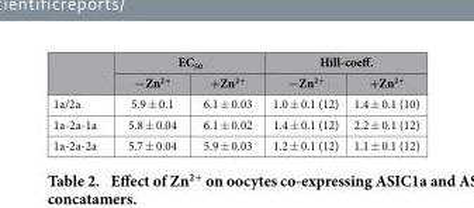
<table><thead><tr><td rowspan="2"></td><td colspan="2">EC<sub>50</sub></td><td colspan="2">Hill-coeff.</td></tr><tr><td>−Zn<sup>2+</sup></td><td>+Zn<sup>2+</sup></td><td>−Zn<sup>2+</sup></td><td>+Zn<sup>2+</sup></td></tr></thead><tbody><tr><td>1a/2a</td><td>5.9 ± 0.1</td><td>6.1 ± 0.03</td><td>1.0 ± 0.1 (12)</td><td>1.4 ± 0.1 (10)</td></tr><tr><td>1a-2a-1a</td><td>5.8 ± 0.04</td><td>6.1 ± 0.02</td><td>1.4 ± 0.1 (12)</td><td>2.2 ± 0.1 (12)</td></tr><tr><td>1a-2a-2a</td><td>5.7 ± 0.04</td><td>5.9 ± 0.03</td><td>1.2 ± 0.1 (12)</td><td>1.1 ± 0.1 (12)</td></tr></tbody></table>